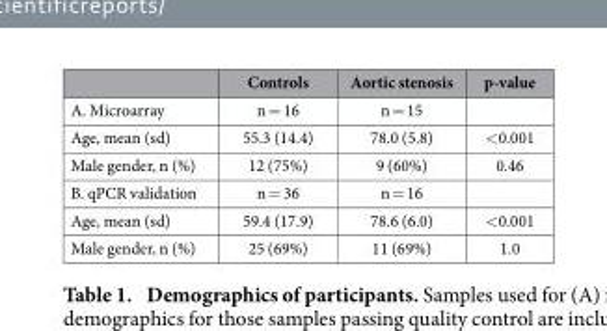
<table><thead><tr><td></td><td>Controls</td><td>Aortic stenosis</td><td>p-value</td></tr></thead><tbody><tr><td>A. Microarray</td><td>n = 16</td><td>n = 15</td><td></td></tr><tr><td>Age, mean (sd)</td><td>55.3 (14.4)</td><td>78.0 (5.8)</td><td>&lt; 0.001</td></tr><tr><td>Male gender, n (%)</td><td>12 (75%)</td><td>9 (60%)</td><td>0.46</td></tr><tr><td>B. qPCR validation</td><td>n = 36</td><td>n = 16</td><td></td></tr><tr><td>Age, mean (sd)</td><td>59.4 (17.9)</td><td>78.6 (6.0)</td><td>&lt; 0.001</td></tr><tr><td>Male gender, n (%)</td><td>25 (69%)</td><td>11 (69%)</td><td>1.0</td></tr></tbody></table>